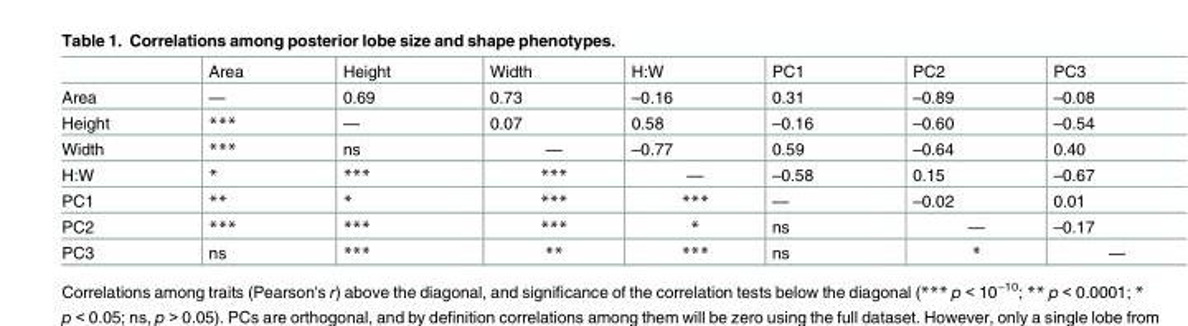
<table><thead><tr><td></td><td>Area</td><td>Height</td><td>Width</td><td>H:W</td><td>PC1</td><td>PC2</td><td>PC3</td></tr></thead><tbody><tr><td>Area</td><td>—</td><td>0.69</td><td>0.73</td><td>–0.16</td><td>0.31</td><td>–0.89</td><td>–0.08</td></tr><tr><td>Height</td><td>***</td><td>—</td><td>0.07</td><td>0.58</td><td>–0.16</td><td>–0.60</td><td>–0.54</td></tr><tr><td>Width</td><td>***</td><td>ns</td><td>—</td><td>–0.77</td><td>0.59</td><td>–0.64</td><td>0.40</td></tr><tr><td>H:W</td><td>*</td><td>***</td><td>***</td><td>—</td><td>–0.58</td><td>0.15</td><td>–0.67</td></tr><tr><td>PC1</td><td>**</td><td>*</td><td>***</td><td>***</td><td>—</td><td>–0.02</td><td>0.01</td></tr><tr><td>PC2</td><td>***</td><td>***</td><td>***</td><td>*</td><td>ns</td><td>—</td><td>–0.17</td></tr><tr><td>PC3</td><td>ns</td><td>***</td><td>**</td><td>***</td><td>ns</td><td>*</td><td>—</td></tr></tbody></table>